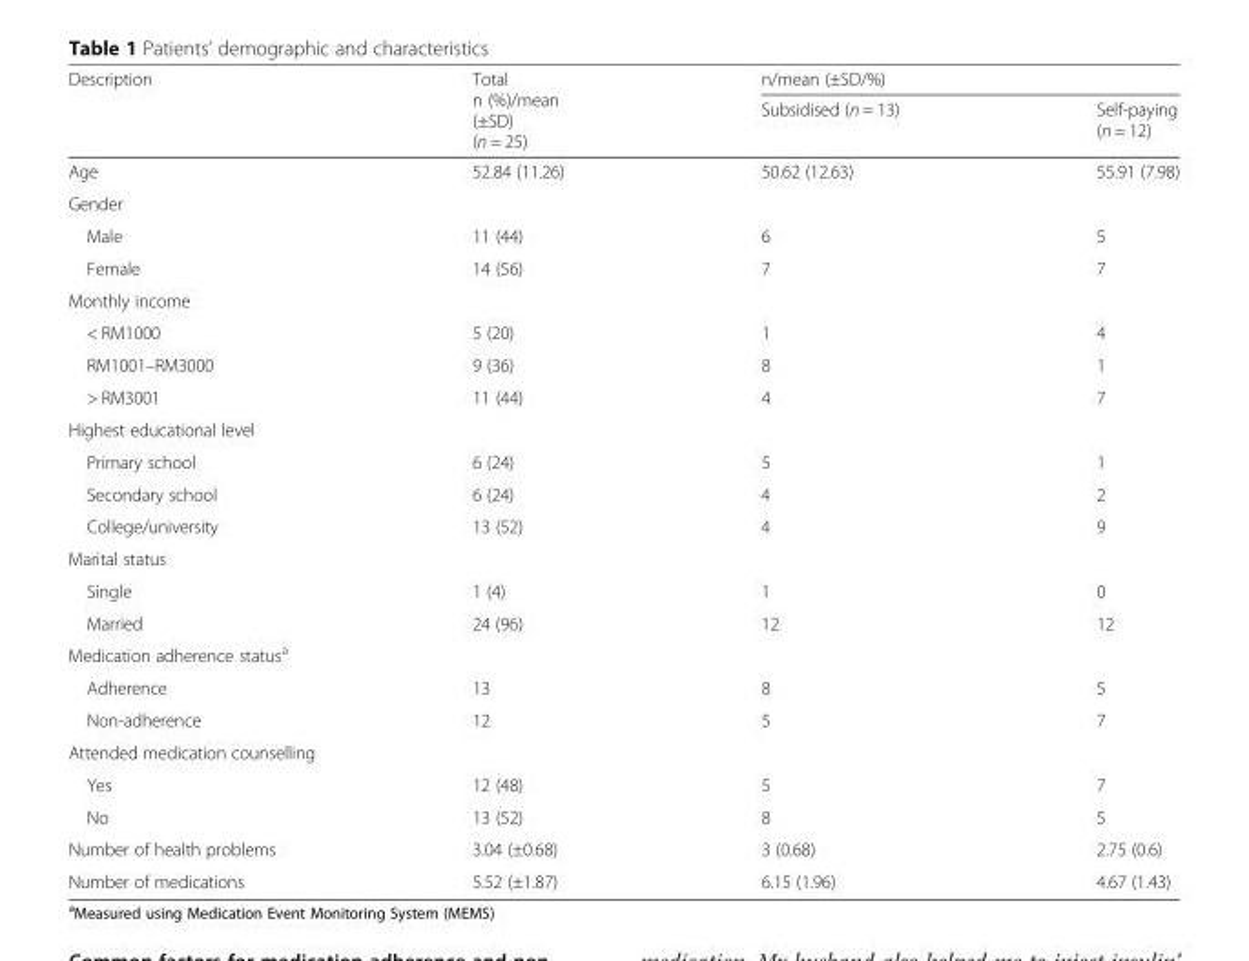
<table><thead><tr><td rowspan="2">Description</td><td rowspan="2">Total n (%)/mean (±SD) (n = 25)</td><td colspan="2">n/mean (±SD/%)</td></tr><tr><td>Subsidised (n = 13)</td><td>Self-paying (n = 12)</td></tr></thead><tbody><tr><td>Age</td><td>52.84 (11.26)</td><td>50.62 (12.63)</td><td>55.91 (7.98)</td></tr><tr><td colspan="4">Gender</td></tr><tr><td>Male</td><td>11 (44)</td><td>6</td><td>5</td></tr><tr><td>Female</td><td>14 (56)</td><td>7</td><td>7</td></tr><tr><td colspan="4">Monthly income</td></tr><tr><td>&lt; RM1000</td><td>5 (20)</td><td>1</td><td>4</td></tr><tr><td>RM1001–RM3000</td><td>9 (36)</td><td>8</td><td>1</td></tr><tr><td>&gt; RM3001</td><td>11 (44)</td><td>4</td><td>7</td></tr><tr><td colspan="4">Highest educational level</td></tr><tr><td>Primary school</td><td>6 (24)</td><td>5</td><td>1</td></tr><tr><td>Secondary school</td><td>6 (24)</td><td>4</td><td>2</td></tr><tr><td>College/university</td><td>13 (52)</td><td>4</td><td>9</td></tr><tr><td colspan="4">Marital status</td></tr><tr><td>Single</td><td>1 (4)</td><td>1</td><td>0</td></tr><tr><td>Married</td><td>24 (96)</td><td>12</td><td>12</td></tr><tr><td colspan="4">Medication adherence status<sup>a</sup></td></tr><tr><td>Adherence</td><td>13</td><td>8</td><td>5</td></tr><tr><td>Non-adherence</td><td>12</td><td>5</td><td>7</td></tr><tr><td colspan="4">Attended medication counselling</td></tr><tr><td>Yes</td><td>12 (48)</td><td>5</td><td>7</td></tr><tr><td>No</td><td>13 (52)</td><td>8</td><td>5</td></tr><tr><td>Number of health problems</td><td>3.04 (±0.68)</td><td>3 (0.68)</td><td>2.75 (0.6)</td></tr><tr><td>Number of medications</td><td>5.52 (±1.87)</td><td>6.15 (1.96)</td><td>4.67 (1.43)</td></tr></tbody></table>